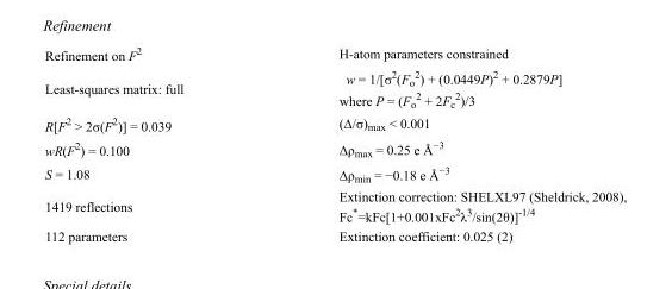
<table><tbody><tr><td>Refinement on F<sup>2</sup></td><td>H-atom parameters constrained</td></tr><tr><td>Least-squares matrix: full</td><td>w = 1/[σ<sup>2</sup>(F<sub>o</sub> <sup>2</sup>) + (0.0449P)<sup>2</sup> + 0.2879P] where P = (F<sub>o</sub> <sup>2</sup> + 2F<sub>c</sub> <sup>2</sup>)/3</td></tr><tr><td>R[F<sup>2</sup> &gt; 2σ(F<sup>2</sup>)] = 0.039</td><td>(Δ/σ)<sub>max</sub> &lt; 0.001</td></tr><tr><td>wR(F<sup>2</sup>) = 0.100</td><td>Δρ<sub>max</sub> = 0.25 e Å<sup>−3</sup></td></tr><tr><td>S = 1.08</td><td>Δρ<sub>min</sub> = −0.18 e Å<sup>−3</sup></td></tr><tr><td>1419 reflections</td><td>Extinction correction: SHELXL97 (Sheldrick, 2008), Fc*=kFc[1+0.001xFc<sup>2</sup>λ<sup>3</sup>/sin(2θ)]<sup>-1/4</sup></td></tr><tr><td>112 parameters</td><td>Extinction coefficient: 0.025 (2)</td></tr></tbody></table>